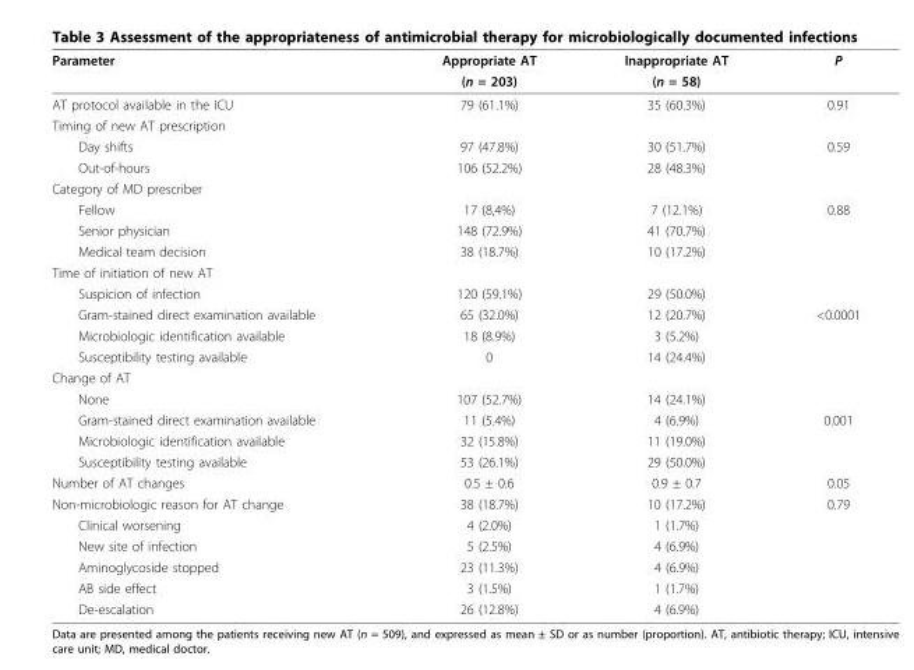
<table><thead><tr><td rowspan="2">Parameter</td><td rowspan="2">Appropriate AT (n = 203)</td><td rowspan="2">Inappropriate AT (n = 58)</td><td rowspan="2">P</td></tr><tr></tr></thead><tbody><tr><td>AT protocol available in the ICU</td><td>79 (61.1%)</td><td>35 (60.3%)</td><td>0.91</td></tr><tr><td colspan="4">Timing of new AT prescription</td></tr><tr><td>Day shifts</td><td>97 (47.8%)</td><td>30 (51.7%)</td><td>0.59</td></tr><tr><td>Out-of-hours</td><td>106 (52.2%)</td><td>28 (48.3%)</td><td></td></tr><tr><td colspan="4">Category of MD prescriber</td></tr><tr><td>Fellow</td><td>17 (8,4%)</td><td>7 (12.1%)</td><td>0.88</td></tr><tr><td>Senior physician</td><td>148 (72.9%)</td><td>41 (70.7%)</td><td></td></tr><tr><td>Medical team decision</td><td>38 (18.7%)</td><td>10 (17.2%)</td><td></td></tr><tr><td colspan="4">Time of initiation of new AT</td></tr><tr><td>Suspicion of infection</td><td>120 (59.1%)</td><td>29 (50.0%)</td><td></td></tr><tr><td>Gram-stained direct examination available</td><td>65 (32.0%)</td><td>12 (20.7%)</td><td>&lt;0.0001</td></tr><tr><td>Microbiologic identification available</td><td>18 (8.9%)</td><td>3 (5.2%)</td><td></td></tr><tr><td>Susceptibility testing available</td><td>0</td><td>14 (24.4%)</td><td></td></tr><tr><td colspan="4">Change of AT</td></tr><tr><td>None</td><td>107 (52.7%)</td><td>14 (24.1%)</td><td></td></tr><tr><td>Gram-stained direct examination available</td><td>11 (5.4%)</td><td>4 (6.9%)</td><td>0.001</td></tr><tr><td>Microbiologic identification available</td><td>32 (15.8%)</td><td>11 (19.0%)</td><td></td></tr><tr><td>Susceptibility testing available</td><td>53 (26.1%)</td><td>29 (50.0%)</td><td></td></tr><tr><td>Number of AT changes</td><td>0.5 ± 0.6</td><td>0.9 ± 0.7</td><td>0.05</td></tr><tr><td>Non-microbiologic reason for AT change</td><td>38 (18.7%)</td><td>10 (17.2%)</td><td>0.79</td></tr><tr><td>Clinical worsening</td><td>4 (2.0%)</td><td>1 (1.7%)</td><td></td></tr><tr><td>New site of infection</td><td>5 (2.5%)</td><td>4 (6.9%)</td><td></td></tr><tr><td>Aminoglycoside stopped</td><td>23 (11.3%)</td><td>4 (6.9%)</td><td></td></tr><tr><td>AB side effect</td><td>3 (1.5%)</td><td>1 (1.7%)</td><td></td></tr><tr><td>De-escalation</td><td>26 (12.8%)</td><td>4 (6.9%)</td><td></td></tr></tbody></table>